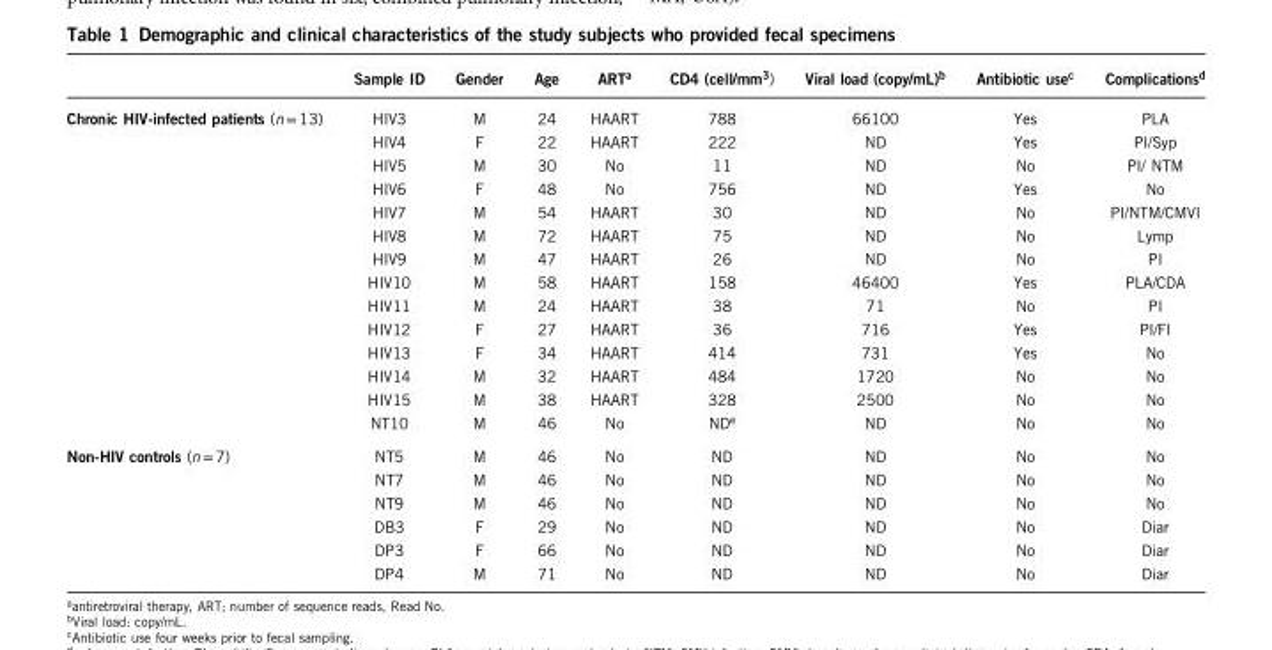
<table><thead><tr><td></td><td>Sample ID</td><td>Gender</td><td>Age</td><td>ART<sup>a</sup></td><td>CD4 (cell/mm<sup>3</sup>)</td><td>Viral load (copy/mL)<sup>b</sup></td><td>Antibiotic use<sup>c</sup></td><td>Complications<sup>d</sup></td></tr></thead><tbody><tr><td rowspan="14">Chronic HIV-infected patients (n = 13)</td><td>HIV3</td><td>M</td><td>24</td><td>HAART</td><td>788</td><td>66100</td><td>Yes</td><td>PLA</td></tr><tr><td>HIV4</td><td>F</td><td>22</td><td>HAART</td><td>222</td><td>ND</td><td>Yes</td><td>PI/Syp</td></tr><tr><td>HIV5</td><td>M</td><td>30</td><td>No</td><td>11</td><td>ND</td><td>No</td><td>PI/ NTM</td></tr><tr><td>HIV6</td><td>F</td><td>48</td><td>No</td><td>756</td><td>ND</td><td>Yes</td><td>No</td></tr><tr><td>HIV7</td><td>M</td><td>54</td><td>HAART</td><td>30</td><td>ND</td><td>No</td><td>PI/NTM/CMVI</td></tr><tr><td>HIV8</td><td>M</td><td>72</td><td>HAART</td><td>75</td><td>ND</td><td>No</td><td>Lymp</td></tr><tr><td>HIV9</td><td>M</td><td>47</td><td>HAART</td><td>26</td><td>ND</td><td>No</td><td>PI</td></tr><tr><td>HIV10</td><td>M</td><td>58</td><td>HAART</td><td>158</td><td>46400</td><td>Yes</td><td>PLA/CDA</td></tr><tr><td>HIV11</td><td>M</td><td>24</td><td>HAART</td><td>38</td><td>71</td><td>No</td><td>PI</td></tr><tr><td>HIV12</td><td>F</td><td>27</td><td>HAART</td><td>36</td><td>716</td><td>Yes</td><td>PI/FI</td></tr><tr><td>HIV13</td><td>F</td><td>34</td><td>HAART</td><td>414</td><td>731</td><td>Yes</td><td>No</td></tr><tr><td>HIV14</td><td>M</td><td>32</td><td>HAART</td><td>484</td><td>1720</td><td>No</td><td>No</td></tr><tr><td>HIV15</td><td>M</td><td>38</td><td>HAART</td><td>328</td><td>2500</td><td>No</td><td>No</td></tr><tr><td>NT10</td><td>M</td><td>46</td><td>No</td><td>ND<sup>e</sup></td><td>ND</td><td>No</td><td>No</td></tr><tr><td rowspan="6">Non-HIV controls (n = 7)</td><td>NT5</td><td>M</td><td>46</td><td>No</td><td>ND</td><td>ND</td><td>No</td><td>No</td></tr><tr><td>NT7</td><td>M</td><td>46</td><td>No</td><td>ND</td><td>ND</td><td>No</td><td>No</td></tr><tr><td>NT9</td><td>M</td><td>46</td><td>No</td><td>ND</td><td>ND</td><td>No</td><td>No</td></tr><tr><td>DB3</td><td>F</td><td>29</td><td>No</td><td>ND</td><td>ND</td><td>No</td><td>Diar</td></tr><tr><td>DP3</td><td>F</td><td>66</td><td>No</td><td>ND</td><td>ND</td><td>No</td><td>Diar</td></tr><tr><td>DP4</td><td>M</td><td>71</td><td>No</td><td>ND</td><td>ND</td><td>No</td><td>Diar</td></tr></tbody></table>